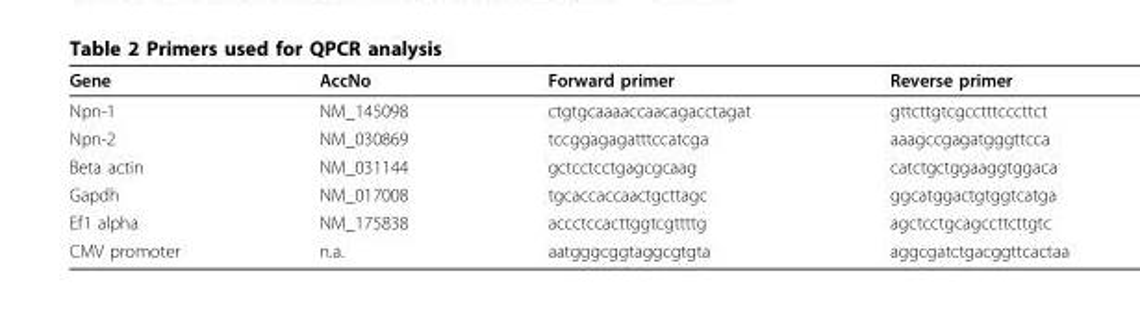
<table><thead><tr><td>Gene</td><td>AccNo</td><td>Forward primer</td><td>Reverse primer</td></tr></thead><tbody><tr><td>Npn-1</td><td>NM_145098</td><td>ctgtgcaaaaccaacagacctagat</td><td>gttcttgtcgcctttcccttct</td></tr><tr><td>Npn-2</td><td>NM_030869</td><td>tccggagagatttccatcga</td><td>aaagccgagatgggttcca</td></tr><tr><td>Beta actin</td><td>NM_031144</td><td>gctcctcctgagcgcaag</td><td>catctgctggaaggtggaca</td></tr><tr><td>Gapdh</td><td>NM_017008</td><td>tgcaccaccaactgcttagc</td><td>ggcatggactgtggtcatga</td></tr><tr><td>Ef1 alpha</td><td>NM_175838</td><td>accctccacttggtcgttttg</td><td>agctcctgcagccttcttgtc</td></tr><tr><td>CMV promoter</td><td>n.a.</td><td>aatgggcggtaggcgtgta</td><td>aggcgatctgacggttcactaa</td></tr></tbody></table>